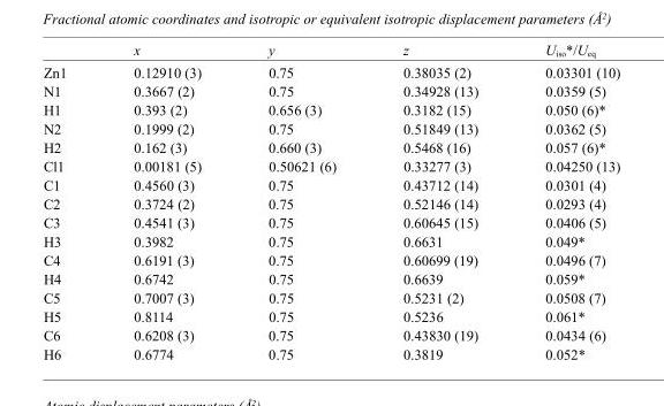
<table><thead><tr><td></td><td>x</td><td>y</td><td>z</td><td>U<sub>iso</sub>*/U<sub>eq</sub></td></tr></thead><tbody><tr><td>Zn1</td><td>0.12910 (3)</td><td>0.75</td><td>0.38035 (2)</td><td>0.03301 (10)</td></tr><tr><td>N1</td><td>0.3667 (2)</td><td>0.75</td><td>0.34928 (13)</td><td>0.0359 (5)</td></tr><tr><td>H1</td><td>0.393 (2)</td><td>0.656 (3)</td><td>0.3182 (15)</td><td>0.050 (6)*</td></tr><tr><td>N2</td><td>0.1999 (2)</td><td>0.75</td><td>0.51849 (13)</td><td>0.0362 (5)</td></tr><tr><td>H2</td><td>0.162 (3)</td><td>0.660 (3)</td><td>0.5468 (16)</td><td>0.057 (6)*</td></tr><tr><td>Cl1</td><td>0.00181 (5)</td><td>0.50621 (6)</td><td>0.33277 (3)</td><td>0.04250 (13)</td></tr><tr><td>C1</td><td>0.4560 (3)</td><td>0.75</td><td>0.43712 (14)</td><td>0.0301 (4)</td></tr><tr><td>C2</td><td>0.3724 (2)</td><td>0.75</td><td>0.52146 (14)</td><td>0.0293 (4)</td></tr><tr><td>C3</td><td>0.4541 (3)</td><td>0.75</td><td>0.60645 (15)</td><td>0.0406 (5)</td></tr><tr><td>H3</td><td>0.3982</td><td>0.75</td><td>0.6631</td><td>0.049*</td></tr><tr><td>C4</td><td>0.6191 (3)</td><td>0.75</td><td>0.60699 (19)</td><td>0.0496 (7)</td></tr><tr><td>H4</td><td>0.6742</td><td>0.75</td><td>0.6639</td><td>0.059*</td></tr><tr><td>C5</td><td>0.7007 (3)</td><td>0.75</td><td>0.5231 (2)</td><td>0.0508 (7)</td></tr><tr><td>H5</td><td>0.8114</td><td>0.75</td><td>0.5236</td><td>0.061*</td></tr><tr><td>C6</td><td>0.6208 (3)</td><td>0.75</td><td>0.43830 (19)</td><td>0.0434 (6)</td></tr><tr><td>H6</td><td>0.6774</td><td>0.75</td><td>0.3819</td><td>0.052*</td></tr></tbody></table>